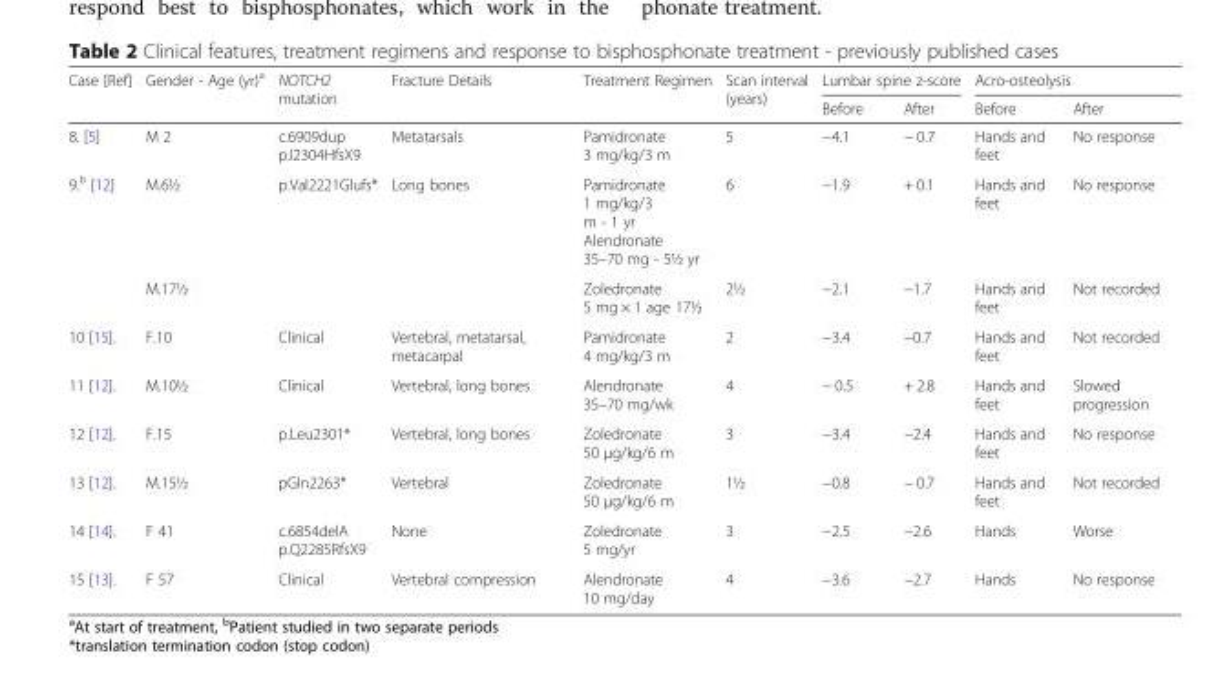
<table><thead><tr><td rowspan="2">Case [Ref]</td><td rowspan="2">Gender - Age (yr)<sup>a</sup></td><td rowspan="2">NOTCH2 mutation</td><td rowspan="2">Fracture Details</td><td rowspan="2">Treatment Regimen</td><td rowspan="2">Scan interval (years)</td><td colspan="2">Lumbar spine z-score</td><td colspan="2">Acro-osteolysis</td></tr><tr><td>Before</td><td>After</td><td>Before</td><td>After</td></tr></thead><tbody><tr><td>8. [5]</td><td>M 2</td><td>c.6909dup p.I2304HfsX9</td><td>Metatarsals</td><td>Pamidronate 3 mg/kg/3 m</td><td>5</td><td>−4.1</td><td>− 0.7</td><td>Hands and feet</td><td>No response</td></tr><tr><td rowspan="2">9.<sup>b</sup> [12]</td><td>M.6½</td><td rowspan="2">p.Val2221Glufs*</td><td rowspan="2">Long bones</td><td>Pamidronate 1 mg/kg/3 m - 1 yr Alendronate 35–70 mg - 5½ yr</td><td>6</td><td>−1.9</td><td>+ 0.1</td><td>Hands and feet</td><td>No response</td></tr><tr><td>M.17½</td><td>Zoledronate 5 mg × 1 age 17½</td><td>2½</td><td>−2.1</td><td>−1.7</td><td>Hands and feet</td><td>Not recorded</td></tr><tr><td>10 [15].</td><td>F.10</td><td>Clinical</td><td>Vertebral, metatarsal, metacarpal</td><td>Pamidronate 4 mg/kg/3 m</td><td>2</td><td>−3.4</td><td>−0.7</td><td>Hands and feet</td><td>Not recorded</td></tr><tr><td>11 [12].</td><td>M.10½</td><td>Clinical</td><td>Vertebral, long bones</td><td>Alendronate 35–70 mg/wk</td><td>4</td><td>− 0.5</td><td>+ 2.8</td><td>Hands and feet</td><td>Slowed progression</td></tr><tr><td>12 [12].</td><td>F.15</td><td>p.Leu2301*</td><td>Vertebral, long bones</td><td>Zoledronate 50 μg/kg/6 m</td><td>3</td><td>−3.4</td><td>−2.4</td><td>Hands and feet</td><td>No response</td></tr><tr><td>13 [12].</td><td>M.15½</td><td>pGln2263*</td><td>Vertebral</td><td>Zoledronate 50 μg/kg/6 m</td><td>1½</td><td>−0.8</td><td>− 0.7</td><td>Hands and feet</td><td>Not recorded</td></tr><tr><td>14 [14].</td><td>F 41</td><td>c.6854delA p.Q2285RfsX9</td><td>None</td><td>Zoledronate 5 mg/yr</td><td>3</td><td>−2.5</td><td>−2.6</td><td>Hands</td><td>Worse</td></tr><tr><td>15 [13].</td><td>F 57</td><td>Clinical</td><td>Vertebral compression</td><td>Alendronate 10 mg/day</td><td>4</td><td>−3.6</td><td>−2.7</td><td>Hands</td><td>No response</td></tr></tbody></table>